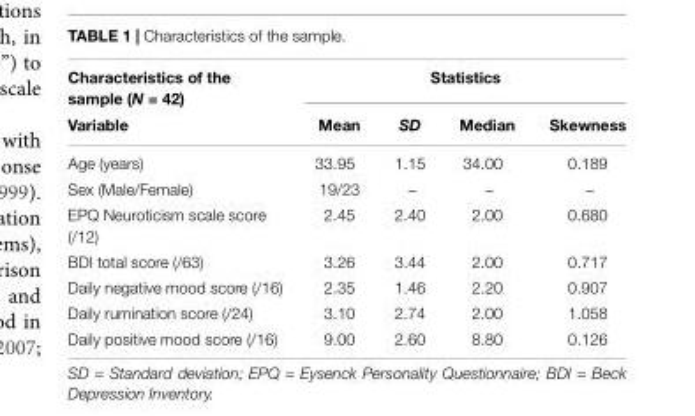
<table><thead><tr><td rowspan="2">Characteristics of the sample (N = 42) Variable</td><td colspan="4">Statistics</td></tr><tr><td>Mean</td><td>SD</td><td>Median</td><td>Skewness</td></tr></thead><tbody><tr><td>Age (years)</td><td>33.95</td><td>1.15</td><td>34.00</td><td>0.189</td></tr><tr><td>Sex (Male/Female)</td><td>19/23</td><td>–</td><td>–</td><td>–</td></tr><tr><td>EPQ Neuroticism scale score (/12)</td><td>2.45</td><td>2.40</td><td>2.00</td><td>0.680</td></tr><tr><td>BDI total score (/63)</td><td>3.26</td><td>3.44</td><td>2.00</td><td>0.717</td></tr><tr><td>Daily negative mood score (/16)</td><td>2.35</td><td>1.46</td><td>2.20</td><td>0.907</td></tr><tr><td>Daily rumination score (/24)</td><td>3.10</td><td>2.74</td><td>2.00</td><td>1.058</td></tr><tr><td>Daily positive mood score (/16)</td><td>9.00</td><td>2.60</td><td>8.80</td><td>0.126</td></tr></tbody></table>